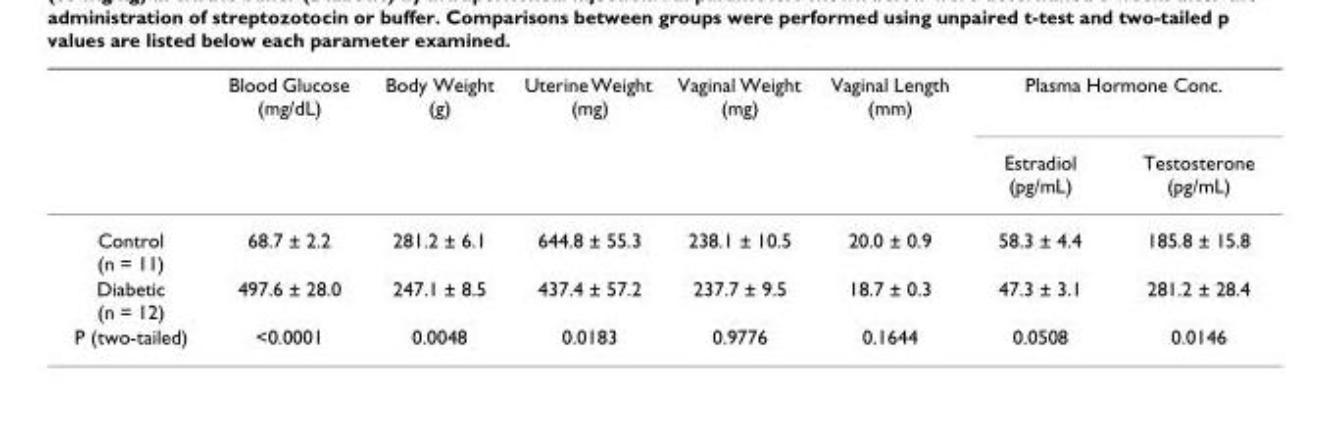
<table><thead><tr><td rowspan="2"></td><td rowspan="2">Blood Glucose (mg/dL)</td><td rowspan="2">Body Weight (g)</td><td rowspan="2">Uterine Weight (mg)</td><td rowspan="2">Vaginal Weight (mg)</td><td rowspan="2">Vaginal Length (mm)</td><td colspan="2">Plasma Hormone Conc.</td></tr><tr><td>Estradiol (pg/mL)</td><td>Testosterone (pg/mL)</td></tr></thead><tbody><tr><td>Control (n = 11)</td><td>68.7 ± 2.2</td><td>281.2 ± 6.1</td><td>644.8 ± 55.3</td><td>238.1 ± 10.5</td><td>20.0 ± 0.9</td><td>58.3 ± 4.4</td><td>185.8 ± 15.8</td></tr><tr><td>Diabetic (n = 12)</td><td>497.6 ± 28.0</td><td>247.1 ± 8.5</td><td>437.4 ± 57.2</td><td>237.7 ± 9.5</td><td>18.7 ± 0.3</td><td>47.3 ± 3.1</td><td>281.2 ± 28.4</td></tr><tr><td>P (two-tailed)</td><td>&lt;0.0001</td><td>0.0048</td><td>0.0183</td><td>0.9776</td><td>0.1644</td><td>0.0508</td><td>0.0146</td></tr></tbody></table>